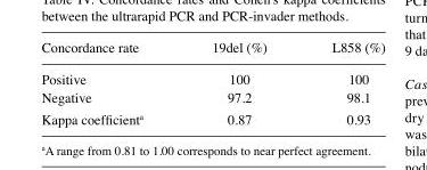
<table><thead><tr><td>Concordance rate</td><td>19del (%)</td><td>L858 (%)</td></tr></thead><tbody><tr><td>Positive</td><td>100</td><td>100</td></tr><tr><td>Negative</td><td>97.2</td><td>98.1</td></tr><tr><td>Kappa coefficient<sup>a</sup></td><td>0.87</td><td>0.93</td></tr></tbody></table>